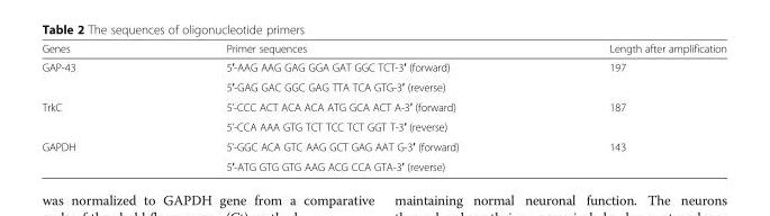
<table><thead><tr><td>Genes</td><td>Primer sequences</td><td>Length after amplification</td></tr></thead><tbody><tr><td rowspan="2">GAP-43</td><td>5′-AAG AAG GAG GGA GAT GGC TCT-3′ (forward)</td><td rowspan="2">197</td></tr><tr><td>5′-GAG GAC GGC GAG TTA TCA GTG-3′ (reverse)</td></tr><tr><td rowspan="2">TrkC</td><td>5’-CCC ACT ACA ACA ATG GCA ACT A-3′ (forward)</td><td rowspan="2">187</td></tr><tr><td>5’-CCA AAA GTG TCT TCC TCT GGT T-3′ (reverse)</td></tr><tr><td rowspan="2">GAPDH</td><td>5’-GGC ACA GTC AAG GCT GAG AAT G-3′ (forward)</td><td rowspan="2">143</td></tr><tr><td>5′-ATG GTG GTG AAG ACG CCA GTA-3′ (reverse)</td></tr></tbody></table>